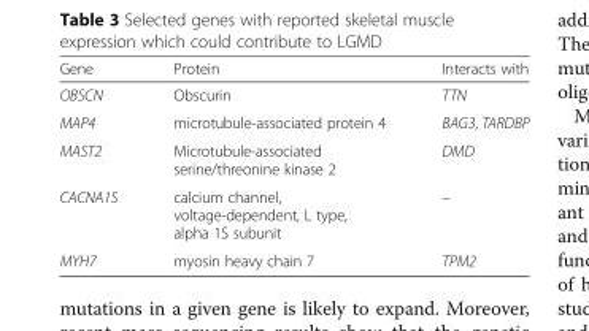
<table><thead><tr><td>Gene</td><td>Protein</td><td>Interacts with</td></tr></thead><tbody><tr><td>OBSCN</td><td>Obscurin</td><td>TTN</td></tr><tr><td>MAP4</td><td>microtubule-associated protein 4</td><td>BAG3, TARDBP</td></tr><tr><td>MAST2</td><td>Microtubule-associated serine/threonine kinase 2</td><td>DMD</td></tr><tr><td>CACNA1S</td><td>calcium channel, voltage-dependent, L type, alpha 1S subunit</td><td>–</td></tr><tr><td>MYH7</td><td>myosin heavy chain 7</td><td>TPM2</td></tr></tbody></table>